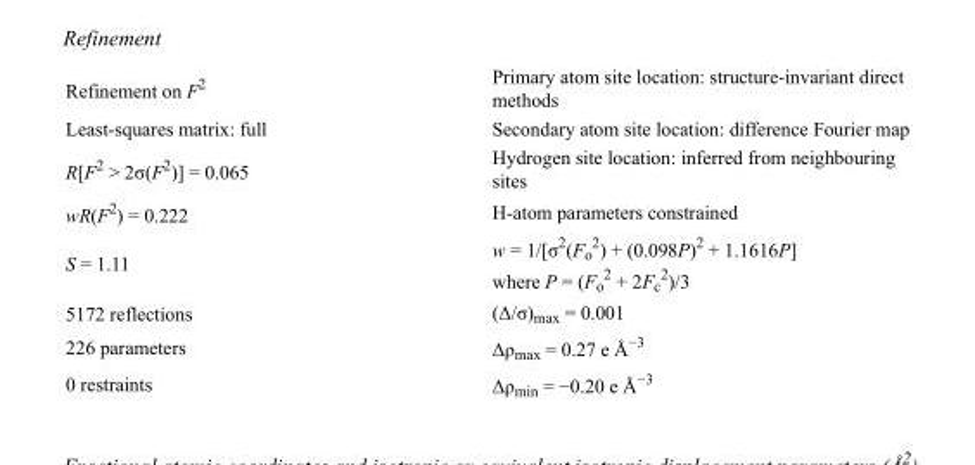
<table><tbody><tr><td>Refinement on F<sup>2</sup></td><td>Primary atom site location: structure-invariant direct methods</td></tr><tr><td>Least-squares matrix: full</td><td>Secondary atom site location: difference Fourier map</td></tr><tr><td>R[F<sup>2</sup> &gt; 2σ(F<sup>2</sup>)] = 0.065</td><td>Hydrogen site location: inferred from neighbouring sites</td></tr><tr><td>wR(F<sup>2</sup>) = 0.222</td><td>H-atom parameters constrained</td></tr><tr><td>S = 1.11</td><td>w = 1/[σ<sup>2</sup>(F<sub>o</sub> <sup>2</sup>) + (0.098P)<sup>2</sup> + 1.1616P] where P = (F<sub>o</sub> <sup>2</sup> + 2F<sub>c</sub> <sup>2</sup>)/3</td></tr><tr><td>5172 reflections</td><td>(Δ/σ)<sub>max</sub> = 0.001</td></tr><tr><td>226 parameters</td><td>Δρ<sub>max</sub> = 0.27 e Å<sup>−3</sup></td></tr><tr><td>0 restraints</td><td>Δρ<sub>min</sub> = −0.20 e Å<sup>−3</sup></td></tr></tbody></table>